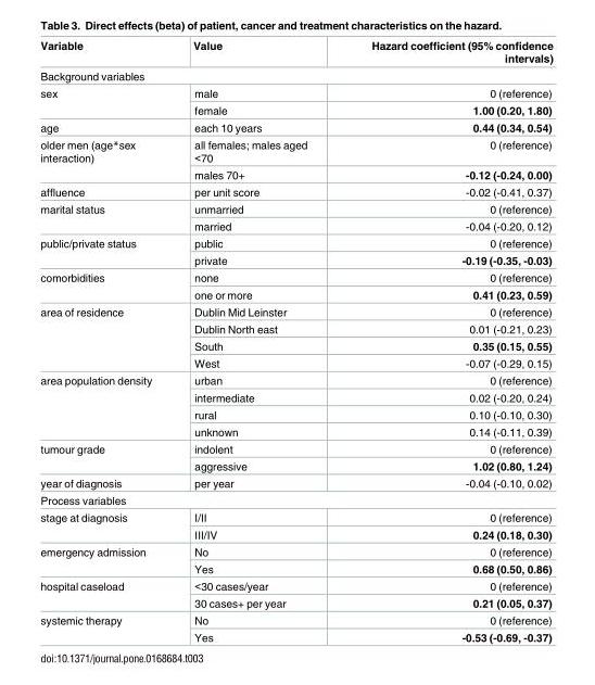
<table><thead><tr><td>Variable</td><td>Value</td><td>Hazard coefficient (95% confidence intervals)</td></tr></thead><tbody><tr><td colspan="3">Background variables</td></tr><tr><td rowspan="2">sex</td><td>male</td><td>0 (reference)</td></tr><tr><td>female</td><td>1.00 (0.20, 1.80)</td></tr><tr><td>age</td><td>each 10 years</td><td>0.44 (0.34, 0.54)</td></tr><tr><td rowspan="2">older men (age*sex interaction)</td><td>all females; males aged &lt;70</td><td>0 (reference)</td></tr><tr><td>males 70+</td><td>-0.12 (-0.24, 0.00)</td></tr><tr><td>affluence</td><td>per unit score</td><td>-0.02 (-0.41, 0.37)</td></tr><tr><td rowspan="2">marital status</td><td>unmarried</td><td>0 (reference)</td></tr><tr><td>married</td><td>-0.04 (-0.20, 0.12)</td></tr><tr><td rowspan="2">public/private status</td><td>public</td><td>0 (reference)</td></tr><tr><td>private</td><td>-0.19 (-0.35, -0.03)</td></tr><tr><td rowspan="2">comorbidities</td><td>none</td><td>0 (reference)</td></tr><tr><td>one or more</td><td>0.41 (0.23, 0.59)</td></tr><tr><td rowspan="4">area of residence</td><td>Dublin Mid Leinster</td><td>0 (reference)</td></tr><tr><td>Dublin North east</td><td>0.01 (-0.21, 0.23)</td></tr><tr><td>South</td><td>0.35 (0.15, 0.55)</td></tr><tr><td>West</td><td>-0.07 (-0.29, 0.15)</td></tr><tr><td rowspan="4">area population density</td><td>urban</td><td>0 (reference)</td></tr><tr><td>intermediate</td><td>0.02 (-0.20, 0.24)</td></tr><tr><td>rural</td><td>0.10 (-0.10, 0.30)</td></tr><tr><td>unknown</td><td>0.14 (-0.11, 0.39)</td></tr><tr><td rowspan="2">tumour grade</td><td>indolent</td><td>0 (reference)</td></tr><tr><td>aggressive</td><td>1.02 (0.80, 1.24)</td></tr><tr><td>year of diagnosis</td><td>per year</td><td>-0.04 (-0.10, 0.02)</td></tr><tr><td colspan="3">Process variables</td></tr><tr><td rowspan="2">stage at diagnosis</td><td>I/II</td><td>0 (reference)</td></tr><tr><td>III/IV</td><td>0.24 (0.18, 0.30)</td></tr><tr><td rowspan="2">emergency admission</td><td>No</td><td>0 (reference)</td></tr><tr><td>Yes</td><td>0.68 (0.50, 0.86)</td></tr><tr><td rowspan="2">hospital caseload</td><td>&lt;30 cases/year</td><td>0 (reference)</td></tr><tr><td>30 cases+ per year</td><td>0.21 (0.05, 0.37)</td></tr><tr><td rowspan="2">systemic therapy</td><td>No</td><td>0 (reference)</td></tr><tr><td>Yes</td><td>-0.53 (-0.69, -0.37)</td></tr></tbody></table>